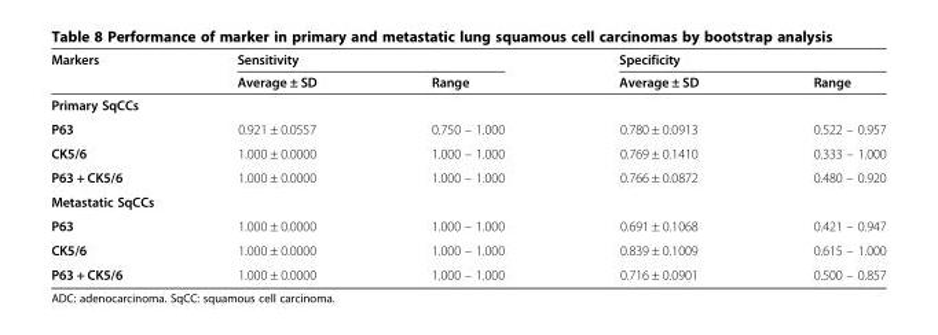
<table><thead><tr><td rowspan="2">Markers</td><td colspan="2">Sensitivity</td><td colspan="2">Specificity</td></tr><tr><td>Average ± SD</td><td>Range</td><td>Average ± SD</td><td>Range</td></tr></thead><tbody><tr><td colspan="5">Primary SqCCs</td></tr><tr><td>P63</td><td>0.921 ± 0.0557</td><td>0.750 – 1.000</td><td>0.780 ± 0.0913</td><td>0.522 – 0.957</td></tr><tr><td>CK5/6</td><td>1.000 ± 0.0000</td><td>1.000 – 1.000</td><td>0.769 ± 0.1410</td><td>0.333 – 1.000</td></tr><tr><td>P63 + CK5/6</td><td>1.000 ± 0.0000</td><td>1.000 – 1.000</td><td>0.766 ± 0.0872</td><td>0.480 – 0.920</td></tr><tr><td colspan="5">Metastatic SqCCs</td></tr><tr><td>P63</td><td>1.000 ± 0.0000</td><td>1.000 – 1.000</td><td>0.691 ± 0.1068</td><td>0.421 – 0.947</td></tr><tr><td>CK5/6</td><td>1.000 ± 0.0000</td><td>1.000 – 1.000</td><td>0.839 ± 0.1009</td><td>0.615 – 1.000</td></tr><tr><td>P63 + CK5/6</td><td>1.000 ± 0.0000</td><td>1.000 – 1.000</td><td>0.716 ± 0.0901</td><td>0.500 – 0.857</td></tr></tbody></table>